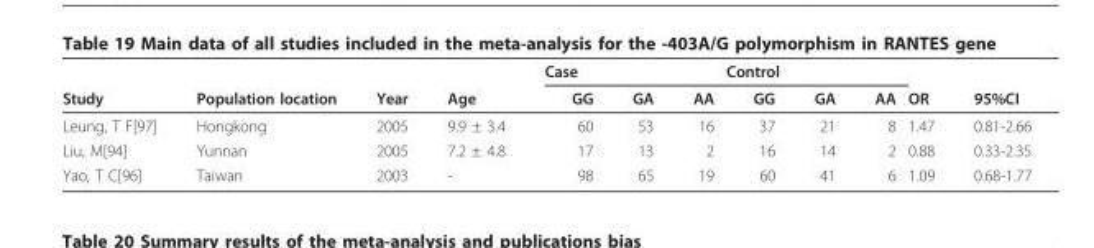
<table><thead><tr><td rowspan="2">Study</td><td rowspan="2">Population location</td><td rowspan="2">Year</td><td rowspan="2">Age</td><td colspan="3">Case</td><td colspan="3">Control</td><td rowspan="2">OR</td><td rowspan="2">95%CI</td></tr><tr><td>GG</td><td>GA</td><td>AA</td><td>GG</td><td>GA</td><td>AA</td></tr></thead><tbody><tr><td>Leung, T F[97]</td><td>Hongkong</td><td>2005</td><td>9.9 ± 3.4</td><td>60</td><td>53</td><td>16</td><td>37</td><td>21</td><td>8</td><td>1.47</td><td>0.81-2.66</td></tr><tr><td>Liu, M[94]</td><td>Yunnan</td><td>2005</td><td>7.2 ± 4.8</td><td>17</td><td>13</td><td>2</td><td>16</td><td>14</td><td>2</td><td>0.88</td><td>0.33-2.35</td></tr><tr><td>Yao, T C[96]</td><td>Taiwan</td><td>2003</td><td>-</td><td>98</td><td>65</td><td>19</td><td>60</td><td>41</td><td>6</td><td>1.09</td><td>0.68-1.77</td></tr></tbody></table>